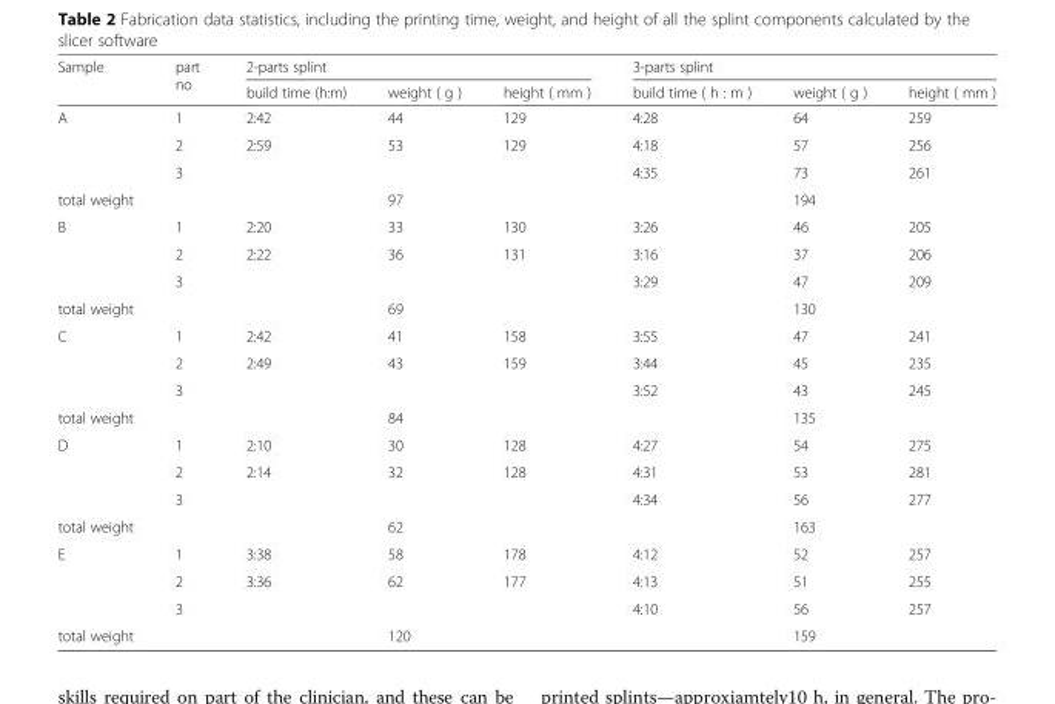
<table><thead><tr><td rowspan="2">Sample</td><td rowspan="2">part no</td><td colspan="3">2-parts splint</td><td colspan="3">3-parts splint</td></tr><tr><td>build time (h:m)</td><td>weight ( g )</td><td>height ( mm )</td><td>build time ( h : m )</td><td>weight ( g )</td><td>height ( mm )</td></tr></thead><tbody><tr><td rowspan="3">A</td><td>1</td><td>2:42</td><td>44</td><td>129</td><td>4:28</td><td>64</td><td>259</td></tr><tr><td>2</td><td>2:59</td><td>53</td><td>129</td><td>4:18</td><td>57</td><td>256</td></tr><tr><td>3</td><td></td><td></td><td></td><td>4:35</td><td>73</td><td>261</td></tr><tr><td>total weight</td><td></td><td></td><td>97</td><td></td><td></td><td>194</td><td></td></tr><tr><td rowspan="3">B</td><td>1</td><td>2:20</td><td>33</td><td>130</td><td>3:26</td><td>46</td><td>205</td></tr><tr><td>2</td><td>2:22</td><td>36</td><td>131</td><td>3:16</td><td>37</td><td>206</td></tr><tr><td>3</td><td></td><td></td><td></td><td>3:29</td><td>47</td><td>209</td></tr><tr><td>total weight</td><td></td><td></td><td>69</td><td></td><td></td><td>130</td><td></td></tr><tr><td rowspan="3">C</td><td>1</td><td>2:42</td><td>41</td><td>158</td><td>3:55</td><td>47</td><td>241</td></tr><tr><td>2</td><td>2:49</td><td>43</td><td>159</td><td>3:44</td><td>45</td><td>235</td></tr><tr><td>3</td><td></td><td></td><td></td><td>3:52</td><td>43</td><td>245</td></tr><tr><td>total weight</td><td></td><td></td><td>84</td><td></td><td></td><td>135</td><td></td></tr><tr><td rowspan="3">D</td><td>1</td><td>2:10</td><td>30</td><td>128</td><td>4:27</td><td>54</td><td>275</td></tr><tr><td>2</td><td>2:14</td><td>32</td><td>128</td><td>4:31</td><td>53</td><td>281</td></tr><tr><td>3</td><td></td><td></td><td></td><td>4:34</td><td>56</td><td>277</td></tr><tr><td>total weight</td><td></td><td></td><td>62</td><td></td><td></td><td>163</td><td></td></tr><tr><td rowspan="3">E</td><td>1</td><td>3:38</td><td>58</td><td>178</td><td>4:12</td><td>52</td><td>257</td></tr><tr><td>2</td><td>3:36</td><td>62</td><td>177</td><td>4:13</td><td>51</td><td>255</td></tr><tr><td>3</td><td></td><td></td><td></td><td>4:10</td><td>56</td><td>257</td></tr><tr><td>total weight</td><td></td><td></td><td>120</td><td></td><td></td><td>159</td><td></td></tr></tbody></table>